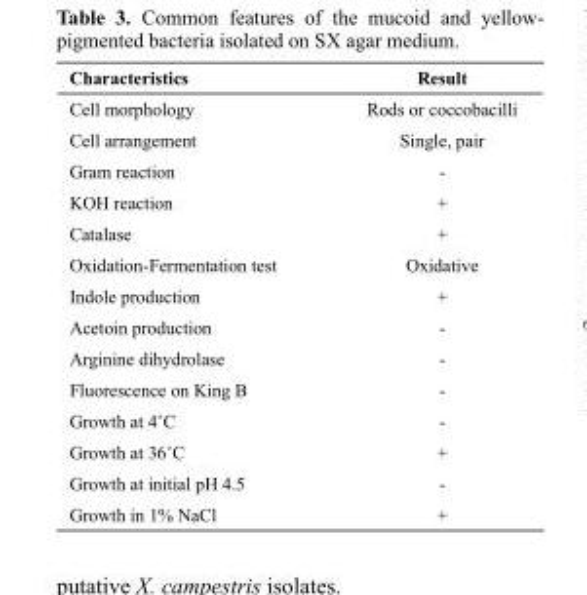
<table><thead><tr><td>Characteristics</td><td>Result</td></tr></thead><tbody><tr><td>Cell morphology</td><td>Rods or coccobacilli</td></tr><tr><td>Cell arrangement</td><td>Single, pair</td></tr><tr><td>Gram reaction</td><td>-</td></tr><tr><td>KOH reaction</td><td>+</td></tr><tr><td>Catalase</td><td>+</td></tr><tr><td>Oxidation-Fermentation test</td><td>Oxidative</td></tr><tr><td>Indole production</td><td>+</td></tr><tr><td>Acetoin production</td><td>-</td></tr><tr><td>Arginine dihydrolase</td><td>-</td></tr><tr><td>Fluorescence on King B</td><td>-</td></tr><tr><td>Growth at 4˚C</td><td>-</td></tr><tr><td>Growth at 36˚C</td><td>+</td></tr><tr><td>Growth at initial pH 4.5</td><td>-</td></tr><tr><td>Growth in 1% NaCl</td><td>+</td></tr></tbody></table>